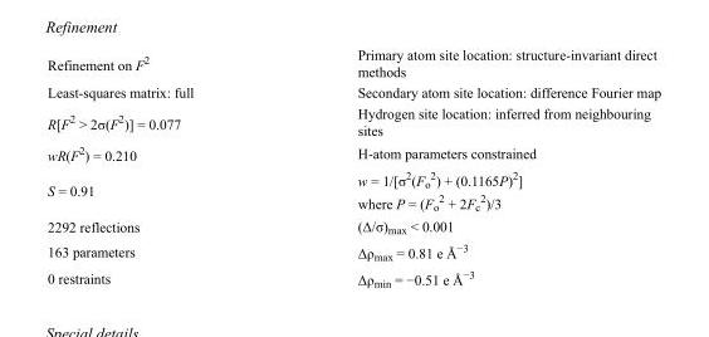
<table><tbody><tr><td>Refinement on F<sup>2</sup></td><td>Primary atom site location: structure-invariant direct methods</td></tr><tr><td>Least-squares matrix: full</td><td>Secondary atom site location: difference Fourier map</td></tr><tr><td>R[F<sup>2</sup> &gt; 2σ(F<sup>2</sup>)] = 0.077</td><td>Hydrogen site location: inferred from neighbouring sites</td></tr><tr><td>wR(F<sup>2</sup>) = 0.210</td><td>H-atom parameters constrained</td></tr><tr><td>S = 0.91</td><td>w = 1/[σ<sup>2</sup>(F<sub>o</sub> <sup>2</sup>) + (0.1165P)<sup>2</sup>] where P = (F<sub>o</sub> <sup>2</sup> + 2F<sub>c</sub> <sup>2</sup>)/3</td></tr><tr><td>2292 reflections</td><td>(Δ/σ)<sub>max</sub> &lt; 0.001</td></tr><tr><td>163 parameters</td><td>Δρ<sub>max</sub> = 0.81 e Å<sup>−3</sup></td></tr><tr><td>0 restraints</td><td>Δρ<sub>min</sub> = −0.51 e Å<sup>−3</sup></td></tr></tbody></table>